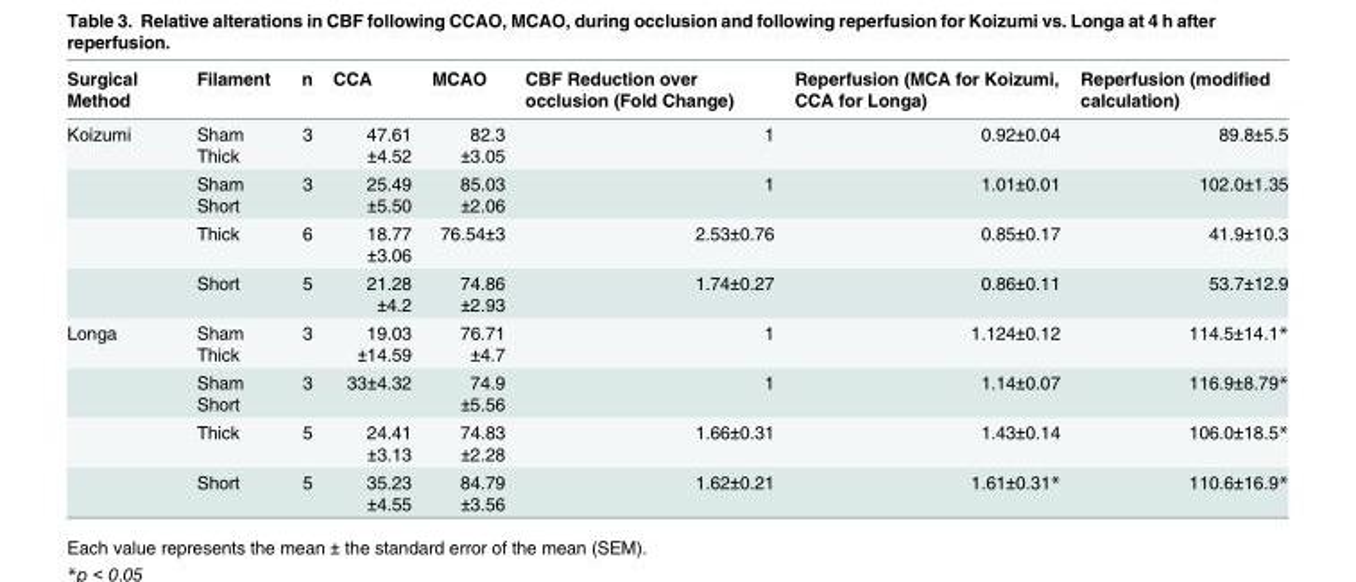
<table><thead><tr><td>Surgical Method</td><td>Filament</td><td>n</td><td>CCA</td><td>MCAO</td><td>CBF Reduction over occlusion (Fold Change)</td><td>Reperfusion (MCA for Koizumi, CCA for Longa)</td><td>Reperfusion (modified calculation)</td></tr></thead><tbody><tr><td rowspan="4">Koizumi</td><td>Sham Thick</td><td>3</td><td>47.61 ±4.52</td><td>82.3 ±3.05</td><td>1</td><td>0.92±0.04</td><td>89.8±5.5</td></tr><tr><td>Sham Short</td><td>3</td><td>25.49 ±5.50</td><td>85.03 ±2.06</td><td>1</td><td>1.01±0.01</td><td>102.0±1.35</td></tr><tr><td>Thick</td><td>6</td><td>18.77 ±3.06</td><td>76.54±3</td><td>2.53±0.76</td><td>0.85±0.17</td><td>41.9±10.3</td></tr><tr><td>Short</td><td>5</td><td>21.28 ±4.2</td><td>74.86 ±2.93</td><td>1.74±0.27</td><td>0.86±0.11</td><td>53.7±12.9</td></tr><tr><td rowspan="4">Longa</td><td>Sham Thick</td><td>3</td><td>19.03 ±14.59</td><td>76.71 ±4.7</td><td>1</td><td>1.124±0.12</td><td>114.5±14.1*</td></tr><tr><td>Sham Short</td><td>3</td><td>33±4.32</td><td>74.9 ±5.56</td><td>1</td><td>1.14±0.07</td><td>116.9±8.79*</td></tr><tr><td>Thick</td><td>5</td><td>24.41 ±3.13</td><td>74.83 ±2.28</td><td>1.66±0.31</td><td>1.43±0.14</td><td>106.0±18.5*</td></tr><tr><td>Short</td><td>5</td><td>35.23 ±4.55</td><td>84.79 ±3.56</td><td>1.62±0.21</td><td>1.61±0.31*</td><td>110.6±16.9*</td></tr></tbody></table>